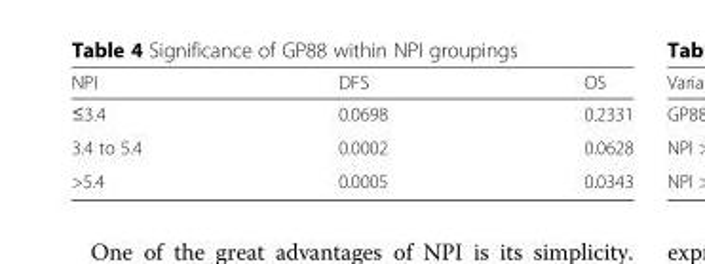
<table><thead><tr><td>NPI</td><td>DFS</td><td>OS</td></tr></thead><tbody><tr><td>≤3.4</td><td>0.0698</td><td>0.2331</td></tr><tr><td>3.4 to 5.4</td><td>0.0002</td><td>0.0628</td></tr><tr><td>&gt;5.4</td><td>0.0005</td><td>0.0343</td></tr></tbody></table>